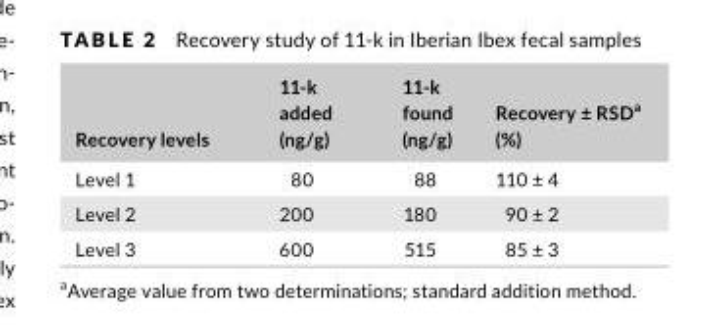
<table><thead><tr><td>Recovery levels</td><td>11- k added (ng/g)</td><td>11- k found (ng/g)</td><td>Recovery ± RSD<sup>a</sup> (%)</td></tr></thead><tbody><tr><td>Level 1</td><td>80</td><td>88</td><td>110 ± 4</td></tr><tr><td>Level 2</td><td>200</td><td>180</td><td>90 ± 2</td></tr><tr><td>Level 3</td><td>600</td><td>515</td><td>85 ± 3</td></tr></tbody></table>